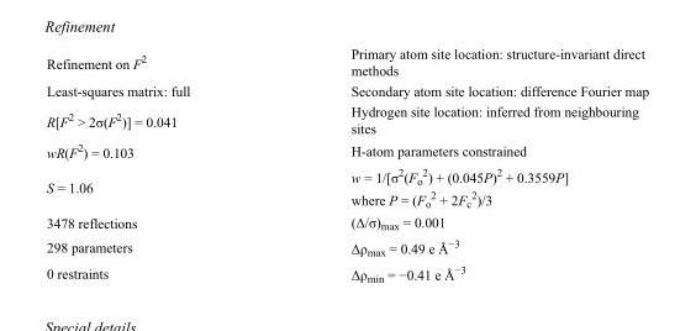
<table><tbody><tr><td>Refinement on F<sup>2</sup></td><td>Primary atom site location: structure-invariant direct methods</td></tr><tr><td>Least-squares matrix: full</td><td>Secondary atom site location: difference Fourier map</td></tr><tr><td>R[F<sup>2</sup> &gt; 2σ(F<sup>2</sup>)] = 0.041</td><td>Hydrogen site location: inferred from neighbouring sites</td></tr><tr><td>wR(F<sup>2</sup>) = 0.103</td><td>H-atom parameters constrained</td></tr><tr><td>S = 1.06</td><td>w = 1/[σ<sup>2</sup>(F<sub>o</sub> <sup>2</sup>) + (0.045P)<sup>2</sup> + 0.3559P] where P = (F<sub>o</sub> <sup>2</sup> + 2F<sub>c</sub> <sup>2</sup>)/3</td></tr><tr><td>3478 reflections</td><td>(Δ/σ)<sub>max</sub> = 0.001</td></tr><tr><td>298 parameters</td><td>Δρ<sub>max</sub> = 0.49 e Å<sup>−3</sup></td></tr><tr><td>0 restraints</td><td>Δρ<sub>min</sub> = −0.41 e Å<sup>−3</sup></td></tr></tbody></table>